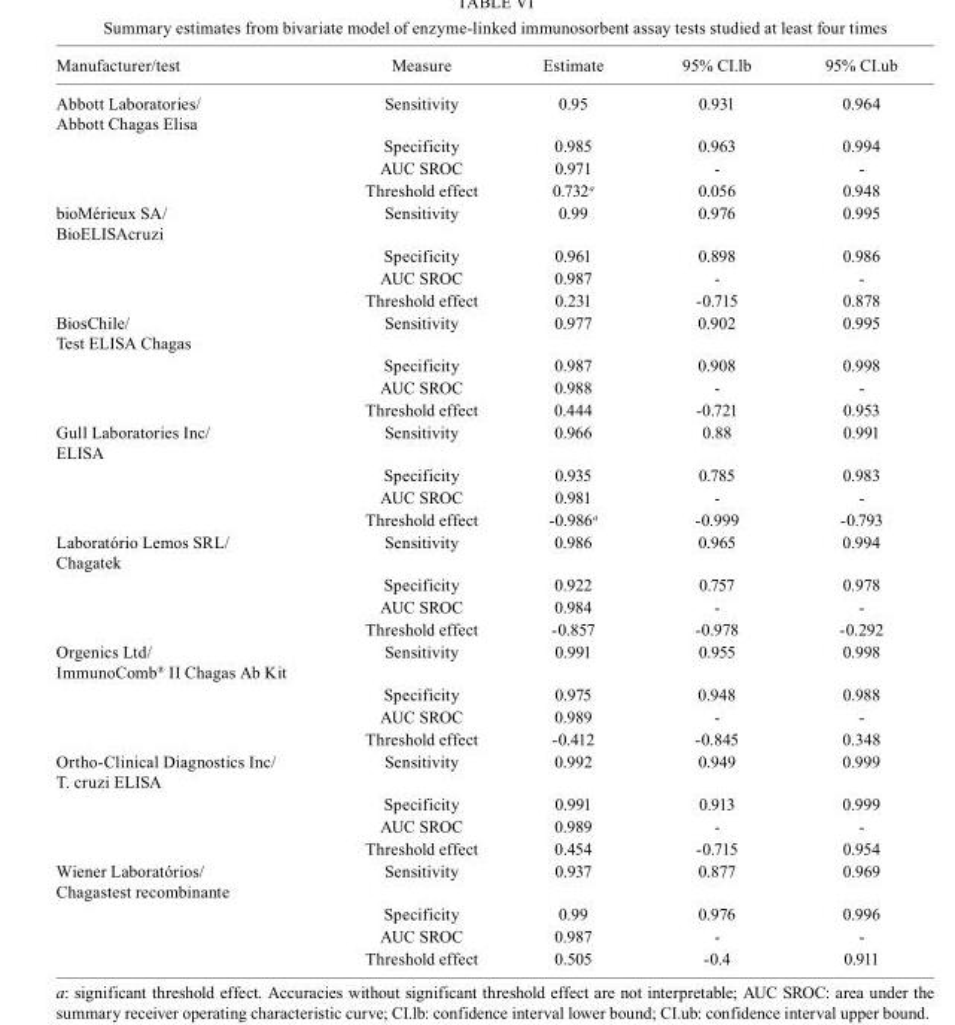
<table><thead><tr><td>Manufacturer/test</td><td>Measure</td><td>Estimate</td><td>95% CI.lb</td><td>95% CI.ub</td></tr></thead><tbody><tr><td rowspan="4">Abbott Laboratories/ Abbott Chagas Elisa</td><td>Sensitivity</td><td>0.95</td><td>0.931</td><td>0.964</td></tr><tr><td>Specificity</td><td>0.985</td><td>0.963</td><td>0.994</td></tr><tr><td>AUC SROC</td><td>0.971</td><td>-</td><td>-</td></tr><tr><td>Threshold effect</td><td>0.732<sup>a</sup></td><td>0.056</td><td>0.948</td></tr><tr><td rowspan="4">bioMérieux SA/ BioELISAcruzi</td><td>Sensitivity</td><td>0.99</td><td>0.976</td><td>0.995</td></tr><tr><td>Specificity</td><td>0.961</td><td>0.898</td><td>0.986</td></tr><tr><td>AUC SROC</td><td>0.987</td><td>-</td><td>-</td></tr><tr><td>Threshold effect</td><td>0.231</td><td>-0.715</td><td>0.878</td></tr><tr><td rowspan="4">BiosChile/ Test ELISA Chagas</td><td>Sensitivity</td><td>0.977</td><td>0.902</td><td>0.995</td></tr><tr><td>Specificity</td><td>0.987</td><td>0.908</td><td>0.998</td></tr><tr><td>AUC SROC</td><td>0.988</td><td>-</td><td>-</td></tr><tr><td>Threshold effect</td><td>0.444</td><td>-0.721</td><td>0.953</td></tr><tr><td rowspan="4">Gull Laboratories Inc/ ELISA</td><td>Sensitivity</td><td>0.966</td><td>0.88</td><td>0.991</td></tr><tr><td>Specificity</td><td>0.935</td><td>0.785</td><td>0.983</td></tr><tr><td>AUC SROC</td><td>0.981</td><td>-</td><td>-</td></tr><tr><td>Threshold effect</td><td>-0.986<sup>a</sup></td><td>-0.999</td><td>-0.793</td></tr><tr><td rowspan="4">Laboratório Lemos SRL/ Chagatek</td><td>Sensitivity</td><td>0.986</td><td>0.965</td><td>0.994</td></tr><tr><td>Specificity</td><td>0.922</td><td>0.757</td><td>0.978</td></tr><tr><td>AUC SROC</td><td>0.984</td><td>-</td><td>-</td></tr><tr><td>Threshold effect</td><td>-0.857</td><td>-0.978</td><td>-0.292</td></tr><tr><td rowspan="4">Orgenics Ltd/ ImmunoComb<sup>®</sup> II Chagas Ab Kit</td><td>Sensitivity</td><td>0.991</td><td>0.955</td><td>0.998</td></tr><tr><td>Specificity</td><td>0.975</td><td>0.948</td><td>0.988</td></tr><tr><td>AUC SROC</td><td>0.989</td><td>-</td><td>-</td></tr><tr><td>Threshold effect</td><td>-0.412</td><td>-0.845</td><td>0.348</td></tr><tr><td rowspan="4">Ortho-Clinical Diagnostics Inc/ T. cruzi ELISA</td><td>Sensitivity</td><td>0.992</td><td>0.949</td><td>0.999</td></tr><tr><td>Specificity</td><td>0.991</td><td>0.913</td><td>0.999</td></tr><tr><td>AUC SROC</td><td>0.989</td><td>-</td><td>-</td></tr><tr><td>Threshold effect</td><td>0.454</td><td>-0.715</td><td>0.954</td></tr><tr><td rowspan="4">Wiener Laboratórios/ Chagastest recombinante</td><td>Sensitivity</td><td>0.937</td><td>0.877</td><td>0.969</td></tr><tr><td>Specificity</td><td>0.99</td><td>0.976</td><td>0.996</td></tr><tr><td>AUC SROC</td><td>0.987</td><td>-</td><td>-</td></tr><tr><td>Threshold effect</td><td>0.505</td><td>-0.4</td><td>0.911</td></tr></tbody></table>